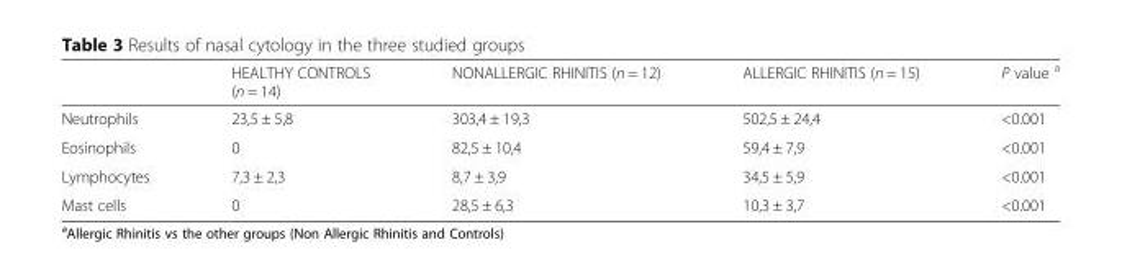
<table><thead><tr><td></td><td>HEALTHY CONTROLS (n = 14)</td><td>NONALLERGIC RHINITIS (n = 12)</td><td>ALLERGIC RHINITIS (n = 15)</td><td>P value <sup>a</sup></td></tr></thead><tbody><tr><td>Neutrophils</td><td>23,5 ± 5,8</td><td>303,4 ± 19,3</td><td>502,5 ± 24,4</td><td>&lt;0.001</td></tr><tr><td>Eosinophils</td><td>0</td><td>82,5 ± 10,4</td><td>59,4 ± 7,9</td><td>&lt;0.001</td></tr><tr><td>Lymphocytes</td><td>7,3 ± 2,3</td><td>8,7 ± 3,9</td><td>34,5 ± 5,9</td><td>&lt;0.001</td></tr><tr><td>Mast cells</td><td>0</td><td>28,5 ± 6,3</td><td>10,3 ± 3,7</td><td>&lt;0.001</td></tr></tbody></table>